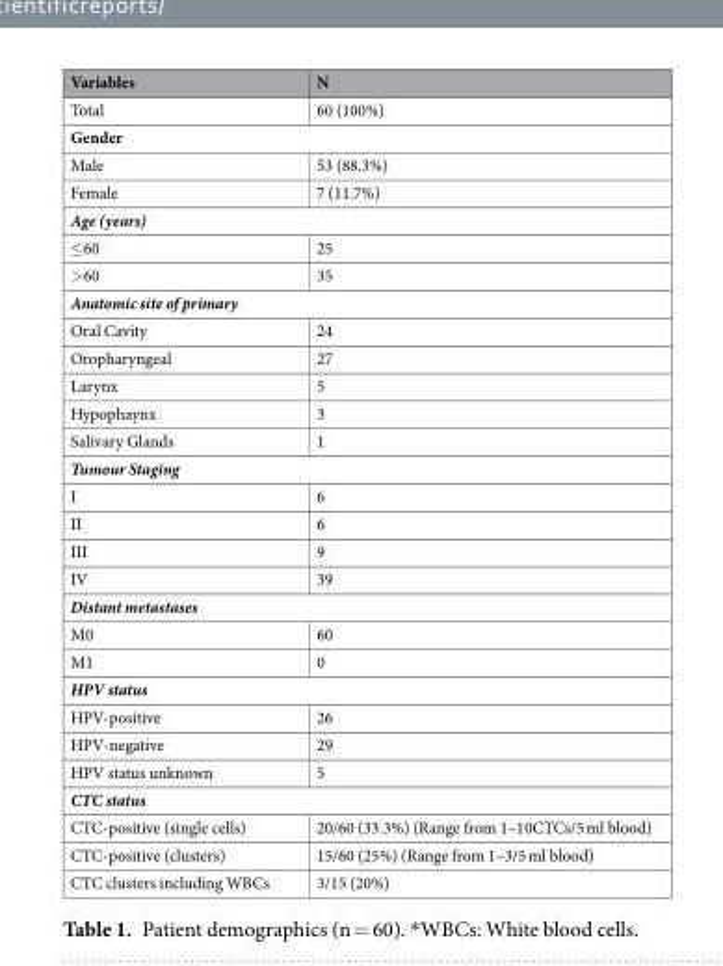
<table><thead><tr><td>Variables</td><td>N</td></tr></thead><tbody><tr><td>Total</td><td>60 (100%)</td></tr><tr><td colspan="2">Gender</td></tr><tr><td>Male</td><td>53 (88.3%)</td></tr><tr><td>Female</td><td>7 (11.7%)</td></tr><tr><td colspan="2">Age (years)</td></tr><tr><td>≤60</td><td>25</td></tr><tr><td>&gt;60</td><td>35</td></tr><tr><td colspan="2">Anatomic site of primary</td></tr><tr><td>Oral Cavity</td><td>24</td></tr><tr><td>Oropharyngeal</td><td>27</td></tr><tr><td>Larynx</td><td>5</td></tr><tr><td>Hypophaynx</td><td>3</td></tr><tr><td>Salivary Glands</td><td>1</td></tr><tr><td colspan="2">Tumour Staging</td></tr><tr><td>I</td><td>6</td></tr><tr><td>II</td><td>6</td></tr><tr><td>III</td><td>9</td></tr><tr><td>IV</td><td>39</td></tr><tr><td colspan="2">Distant metastases</td></tr><tr><td>M0</td><td>60</td></tr><tr><td>M1</td><td>0</td></tr><tr><td colspan="2">HPV status</td></tr><tr><td>HPV-positive</td><td>26</td></tr><tr><td>HPV-negative</td><td>29</td></tr><tr><td>HPV status unknown</td><td>5</td></tr><tr><td colspan="2">CTC status</td></tr><tr><td>CTC-positive (single cells)</td><td>20/60 (33.3%) (Range from 1–10CTCs/5 ml blood)</td></tr><tr><td>CTC-positive (clusters)</td><td>15/60 (25%) (Range from 1–3/5 ml blood)</td></tr><tr><td>CTC clusters including WBCs</td><td>3/15 (20%)</td></tr></tbody></table>